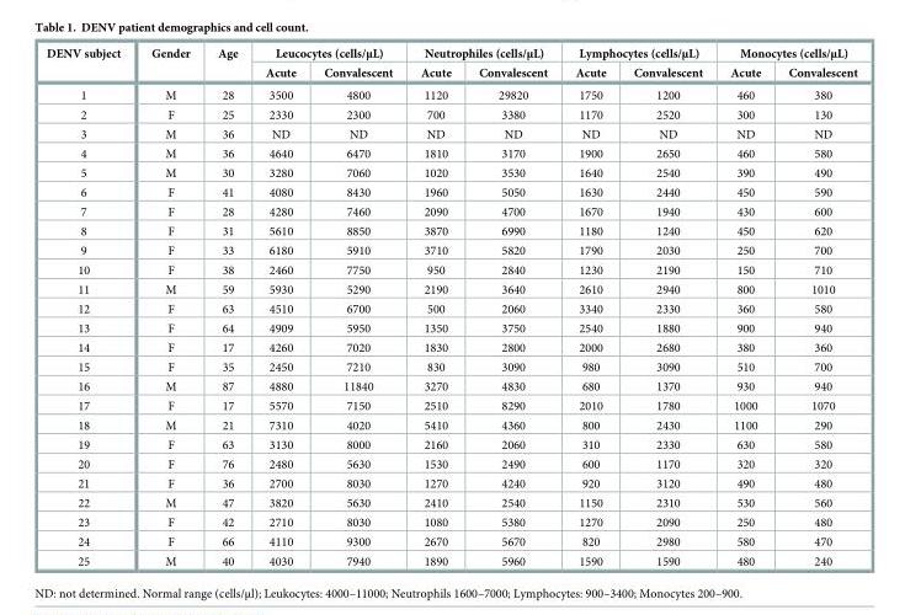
<table><thead><tr><td rowspan="2">DENV subject</td><td rowspan="2">Gender</td><td rowspan="2">Age</td><td colspan="2">Leucocytes (cells/μL)</td><td colspan="2">Neutrophiles (cells/μL)</td><td colspan="2">Lymphocytes (cells/μL)</td><td colspan="2">Monocytes (cells/μL)</td></tr><tr><td>Acute</td><td>Convalescent</td><td>Acute</td><td>Convalescent</td><td>Acute</td><td>Convalescent</td><td>Acute</td><td>Convalescent</td></tr></thead><tbody><tr><td>1</td><td>M</td><td>28</td><td>3500</td><td>4800</td><td>1120</td><td>29820</td><td>1750</td><td>1200</td><td>460</td><td>380</td></tr><tr><td>2</td><td>F</td><td>25</td><td>2330</td><td>2300</td><td>700</td><td>3380</td><td>1170</td><td>2520</td><td>300</td><td>130</td></tr><tr><td>3</td><td>M</td><td>36</td><td>ND</td><td>ND</td><td>ND</td><td>ND</td><td>ND</td><td>ND</td><td>ND</td><td>ND</td></tr><tr><td>4</td><td>M</td><td>36</td><td>4640</td><td>6470</td><td>1810</td><td>3170</td><td>1900</td><td>2650</td><td>460</td><td>580</td></tr><tr><td>5</td><td>M</td><td>30</td><td>3280</td><td>7060</td><td>1020</td><td>3530</td><td>1640</td><td>2540</td><td>390</td><td>490</td></tr><tr><td>6</td><td>F</td><td>41</td><td>4080</td><td>8430</td><td>1960</td><td>5050</td><td>1630</td><td>2440</td><td>450</td><td>590</td></tr><tr><td>7</td><td>F</td><td>28</td><td>4280</td><td>7460</td><td>2090</td><td>4700</td><td>1670</td><td>1940</td><td>430</td><td>600</td></tr><tr><td>8</td><td>F</td><td>31</td><td>5610</td><td>8850</td><td>3870</td><td>6990</td><td>1180</td><td>1240</td><td>450</td><td>620</td></tr><tr><td>9</td><td>F</td><td>33</td><td>6180</td><td>5910</td><td>3710</td><td>5820</td><td>1790</td><td>2030</td><td>250</td><td>700</td></tr><tr><td>10</td><td>F</td><td>38</td><td>2460</td><td>7750</td><td>950</td><td>2840</td><td>1230</td><td>2190</td><td>150</td><td>710</td></tr><tr><td>11</td><td>M</td><td>59</td><td>5930</td><td>5290</td><td>2190</td><td>3640</td><td>2610</td><td>2940</td><td>800</td><td>1010</td></tr><tr><td>12</td><td>F</td><td>63</td><td>4510</td><td>6700</td><td>500</td><td>2060</td><td>3340</td><td>2330</td><td>360</td><td>580</td></tr><tr><td>13</td><td>F</td><td>64</td><td>4909</td><td>5950</td><td>1350</td><td>3750</td><td>2540</td><td>1880</td><td>900</td><td>940</td></tr><tr><td>14</td><td>F</td><td>17</td><td>4260</td><td>7020</td><td>1830</td><td>2800</td><td>2000</td><td>2680</td><td>380</td><td>360</td></tr><tr><td>15</td><td>F</td><td>35</td><td>2450</td><td>7210</td><td>830</td><td>3090</td><td>980</td><td>3090</td><td>510</td><td>700</td></tr><tr><td>16</td><td>M</td><td>87</td><td>4880</td><td>11840</td><td>3270</td><td>4830</td><td>680</td><td>1370</td><td>930</td><td>940</td></tr><tr><td>17</td><td>F</td><td>17</td><td>5570</td><td>7150</td><td>2510</td><td>8290</td><td>2010</td><td>1780</td><td>1000</td><td>1070</td></tr><tr><td>18</td><td>M</td><td>21</td><td>7310</td><td>4020</td><td>5410</td><td>4360</td><td>800</td><td>2430</td><td>1100</td><td>290</td></tr><tr><td>19</td><td>F</td><td>63</td><td>3130</td><td>8000</td><td>2160</td><td>2060</td><td>310</td><td>2330</td><td>630</td><td>580</td></tr><tr><td>20</td><td>F</td><td>76</td><td>2480</td><td>5630</td><td>1530</td><td>2490</td><td>600</td><td>1170</td><td>320</td><td>320</td></tr><tr><td>21</td><td>F</td><td>36</td><td>2700</td><td>8030</td><td>1270</td><td>4240</td><td>920</td><td>3120</td><td>490</td><td>480</td></tr><tr><td>22</td><td>M</td><td>47</td><td>3820</td><td>5630</td><td>2410</td><td>2540</td><td>1150</td><td>2310</td><td>530</td><td>560</td></tr><tr><td>23</td><td>F</td><td>42</td><td>2710</td><td>8030</td><td>1080</td><td>5380</td><td>1270</td><td>2090</td><td>250</td><td>480</td></tr><tr><td>24</td><td>F</td><td>66</td><td>4110</td><td>9300</td><td>2670</td><td>5670</td><td>820</td><td>2980</td><td>580</td><td>470</td></tr><tr><td>25</td><td>M</td><td>40</td><td>4030</td><td>7940</td><td>1890</td><td>5960</td><td>1590</td><td>1590</td><td>480</td><td>240</td></tr></tbody></table>